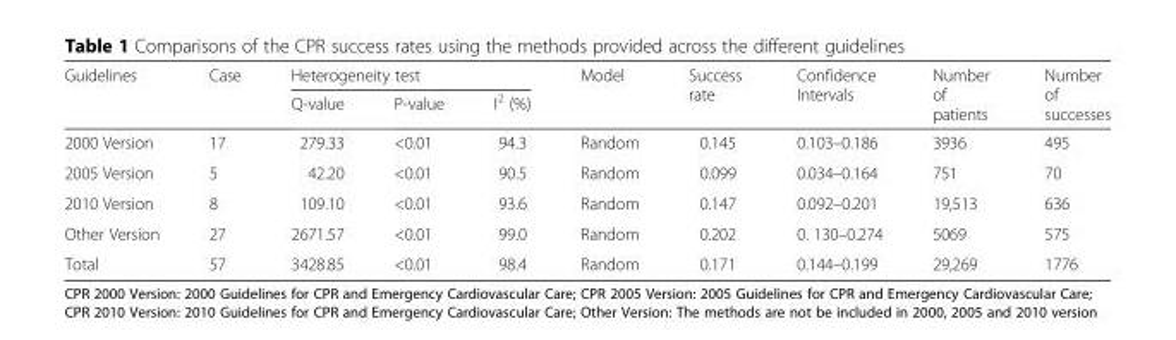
<table><thead><tr><td rowspan="2">Guidelines</td><td rowspan="2">Case</td><td colspan="3">Heterogeneity test</td><td rowspan="2">Model</td><td rowspan="2">Success rate</td><td rowspan="2">Confidence Intervals</td><td rowspan="2">Number of patients</td><td rowspan="2">Number of successes</td></tr><tr><td>Q-value</td><td>P-value</td><td>I<sup>2</sup> (%)</td></tr></thead><tbody><tr><td>2000 Version</td><td>17</td><td>279.33</td><td>&lt;0.01</td><td>94.3</td><td>Random</td><td>0.145</td><td>0.103–0.186</td><td>3936</td><td>495</td></tr><tr><td>2005 Version</td><td>5</td><td>42.20</td><td>&lt;0.01</td><td>90.5</td><td>Random</td><td>0.099</td><td>0.034–0.164</td><td>751</td><td>70</td></tr><tr><td>2010 Version</td><td>8</td><td>109.10</td><td>&lt;0.01</td><td>93.6</td><td>Random</td><td>0.147</td><td>0.092–0.201</td><td>19,513</td><td>636</td></tr><tr><td>Other Version</td><td>27</td><td>2671.57</td><td>&lt;0.01</td><td>99.0</td><td>Random</td><td>0.202</td><td>0. 130–0.274</td><td>5069</td><td>575</td></tr><tr><td>Total</td><td>57</td><td>3428.85</td><td>&lt;0.01</td><td>98.4</td><td>Random</td><td>0.171</td><td>0.144–0.199</td><td>29,269</td><td>1776</td></tr></tbody></table>